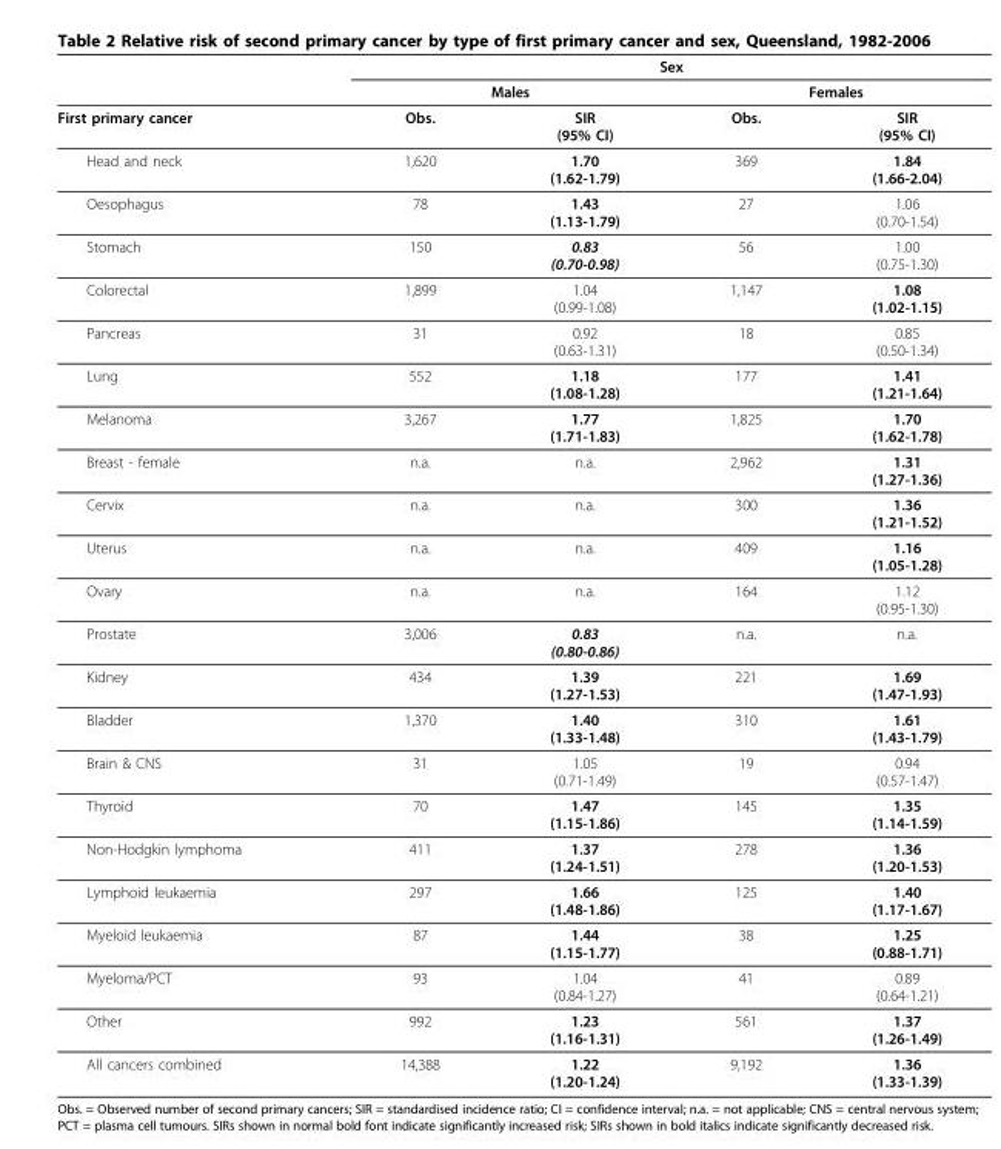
<table><thead><tr><td rowspan="3">First primary cancer</td><td colspan="4">Sex</td></tr><tr><td colspan="2">Males</td><td colspan="2">Females</td></tr><tr><td>Obs.</td><td>SIR (95% CI)</td><td>Obs.</td><td>SIR (95% CI)</td></tr></thead><tbody><tr><td>Head and neck</td><td>1,620</td><td>1.70 (1.62-1.79)</td><td>369</td><td>1.84 (1.66-2.04)</td></tr><tr><td>Oesophagus</td><td>78</td><td>1.43 (1.13-1.79)</td><td>27</td><td>1.06 (0.70-1.54)</td></tr><tr><td>Stomach</td><td>150</td><td>0.83 (0.70-0.98)</td><td>56</td><td>1.00 (0.75-1.30)</td></tr><tr><td>Colorectal</td><td>1,899</td><td>1.04 (0.99-1.08)</td><td>1,147</td><td>1.08 (1.02-1.15)</td></tr><tr><td>Pancreas</td><td>31</td><td>0.92 (0.63-1.31)</td><td>18</td><td>0.85 (0.50-1.34)</td></tr><tr><td>Lung</td><td>552</td><td>1.18 (1.08-1.28)</td><td>177</td><td>1.41 (1.21-1.64)</td></tr><tr><td>Melanoma</td><td>3,267</td><td>1.77 (1.71-1.83)</td><td>1,825</td><td>1.70 (1.62-1.78)</td></tr><tr><td>Breast - female</td><td>n.a.</td><td>n.a.</td><td>2,962</td><td>1.31 (1.27-1.36)</td></tr><tr><td>Cervix</td><td>n.a.</td><td>n.a.</td><td>300</td><td>1.36 (1.21-1.52)</td></tr><tr><td>Uterus</td><td>n.a.</td><td>n.a.</td><td>409</td><td>1.16 (1.05-1.28)</td></tr><tr><td>Ovary</td><td>n.a.</td><td>n.a.</td><td>164</td><td>1.12 (0.95-1.30)</td></tr><tr><td>Prostate</td><td>3,006</td><td>0.83 (0.80-0.86)</td><td>n.a.</td><td>n.a.</td></tr><tr><td>Kidney</td><td>434</td><td>1.39 (1.27-1.53)</td><td>221</td><td>1.69 (1.47-1.93)</td></tr><tr><td>Bladder</td><td>1,370</td><td>1.40 (1.33-1.48)</td><td>310</td><td>1.61 (1.43-1.79)</td></tr><tr><td>Brain &amp; CNS</td><td>31</td><td>1.05 (0.71-1.49)</td><td>19</td><td>0.94 (0.57-1.47)</td></tr><tr><td>Thyroid</td><td>70</td><td>1.47 (1.15-1.86)</td><td>145</td><td>1.35 (1.14-1.59)</td></tr><tr><td>Non-Hodgkin lymphoma</td><td>411</td><td>1.37 (1.24-1.51)</td><td>278</td><td>1.36 (1.20-1.53)</td></tr><tr><td>Lymphoid leukaemia</td><td>297</td><td>1.66 (1.48-1.86)</td><td>125</td><td>1.40 (1.17-1.67)</td></tr><tr><td>Myeloid leukaemia</td><td>87</td><td>1.44 (1.15-1.77)</td><td>38</td><td>1.25 (0.88-1.71)</td></tr><tr><td>Myeloma/PCT</td><td>93</td><td>1.04 (0.84-1.27)</td><td>41</td><td>0.89 (0.64-1.21)</td></tr><tr><td>Other</td><td>992</td><td>1.23 (1.16-1.31)</td><td>561</td><td>1.37 (1.26-1.49)</td></tr><tr><td>All cancers combined</td><td>14,388</td><td>1.22 (1.20-1.24)</td><td>9,192</td><td>1.36 (1.33-1.39)</td></tr></tbody></table>